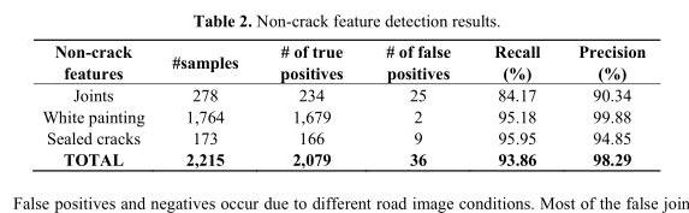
<table><thead><tr><td>Non-crack features</td><td>#samples</td><td># of true positives</td><td># of false positives</td><td>Recall (%)</td><td>Precision (%)</td></tr></thead><tbody><tr><td>Joints</td><td>278</td><td>234</td><td>25</td><td>84.17</td><td>90.34</td></tr><tr><td>White painting</td><td>1,764</td><td>1,679</td><td>2</td><td>95.18</td><td>99.88</td></tr><tr><td>Sealed cracks</td><td>173</td><td>166</td><td>9</td><td>95.95</td><td>94.85</td></tr><tr><td>TOTAL</td><td>2,215</td><td>2,079</td><td>36</td><td>93.86</td><td>98.29</td></tr></tbody></table>